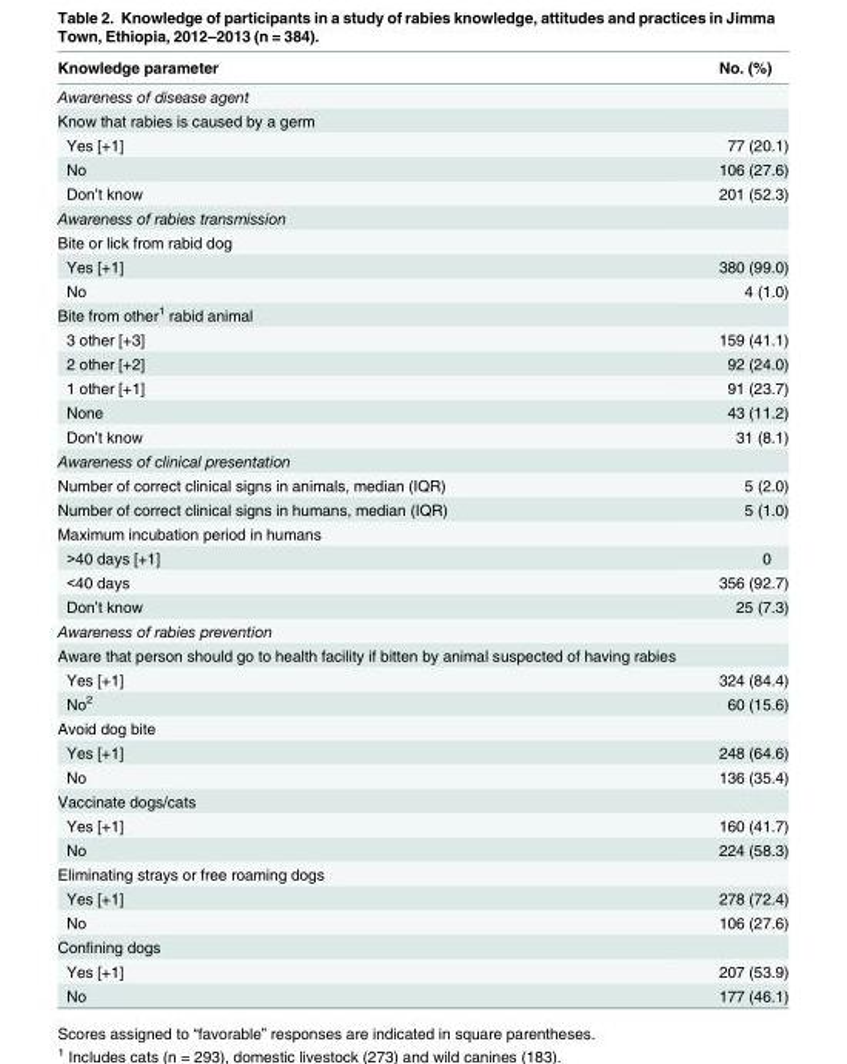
<table><thead><tr><td>Knowledge parameter</td><td>No. (%)</td></tr></thead><tbody><tr><td colspan="2">Awareness of disease agent</td></tr><tr><td colspan="2">Know that rabies is caused by a germ</td></tr><tr><td>Yes [+1]</td><td>77 (20.1)</td></tr><tr><td>No</td><td>106 (27.6)</td></tr><tr><td>Don’t know</td><td>201 (52.3)</td></tr><tr><td colspan="2">Awareness of rabies transmission</td></tr><tr><td colspan="2">Bite or lick from rabid dog</td></tr><tr><td>Yes [+1]</td><td>380 (99.0)</td></tr><tr><td>No</td><td>4 (1.0)</td></tr><tr><td colspan="2">Bite from other<sup>1</sup> rabid animal</td></tr><tr><td>3 other [+3]</td><td>159 (41.1)</td></tr><tr><td>2 other [+2]</td><td>92 (24.0)</td></tr><tr><td>1 other [+1]</td><td>91 (23.7)</td></tr><tr><td>None</td><td>43 (11.2)</td></tr><tr><td>Don’t know</td><td>31 (8.1)</td></tr><tr><td colspan="2">Awareness of clinical presentation</td></tr><tr><td>Number of correct clinical signs in animals, median (IQR)</td><td>5 (2.0)</td></tr><tr><td>Number of correct clinical signs in humans, median (IQR)</td><td>5 (1.0)</td></tr><tr><td colspan="2">Maximum incubation period in humans</td></tr><tr><td>&gt;40 days [+1]</td><td>0</td></tr><tr><td>&lt;40 days</td><td>356 (92.7)</td></tr><tr><td>Don’t know</td><td>25 (7.3)</td></tr><tr><td colspan="2">Awareness of rabies prevention</td></tr><tr><td colspan="2">Aware that person should go to health facility if bitten by animal suspected of having rabies</td></tr><tr><td>Yes [+1]</td><td>324 (84.4)</td></tr><tr><td>No<sup>2</sup></td><td>60 (15.6)</td></tr><tr><td colspan="2">Avoid dog bite</td></tr><tr><td>Yes [+1]</td><td>248 (64.6)</td></tr><tr><td>No</td><td>136 (35.4)</td></tr><tr><td colspan="2">Vaccinate dogs/cats</td></tr><tr><td>Yes [+1]</td><td>160 (41.7)</td></tr><tr><td>No</td><td>224 (58.3)</td></tr><tr><td colspan="2">Eliminating strays or free roaming dogs</td></tr><tr><td>Yes [+1]</td><td>278 (72.4)</td></tr><tr><td>No</td><td>106 (27.6)</td></tr><tr><td colspan="2">Confining dogs</td></tr><tr><td>Yes [+1]</td><td>207 (53.9)</td></tr><tr><td>No</td><td>177 (46.1)</td></tr></tbody></table>